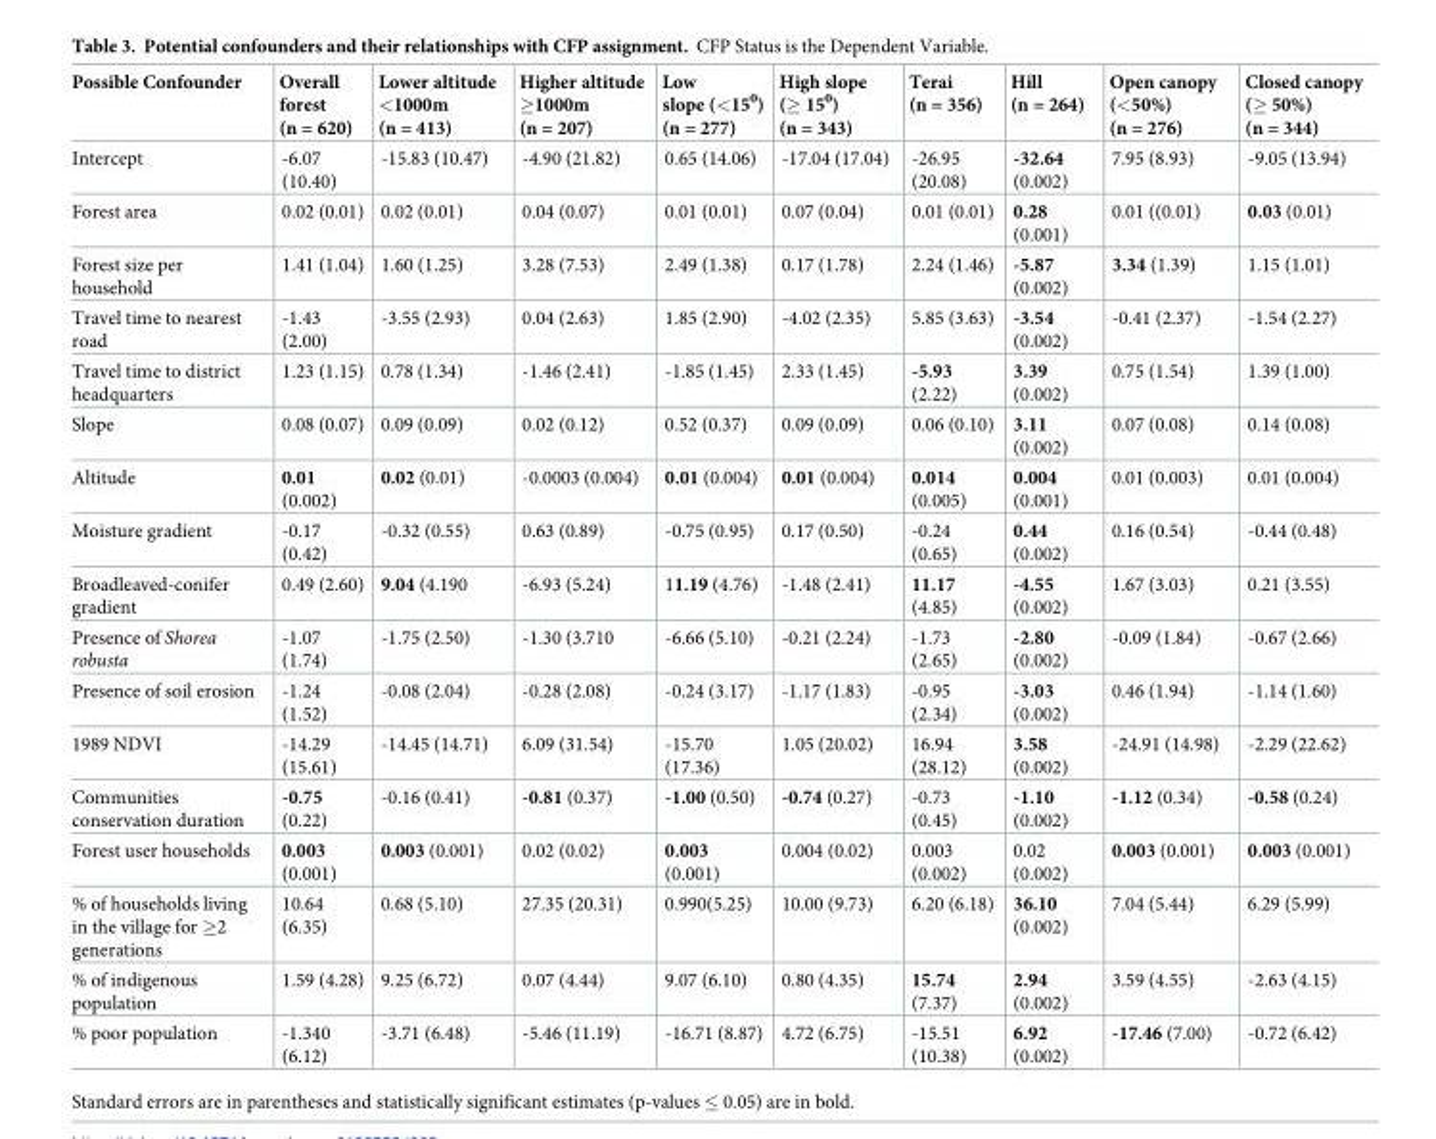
<table><thead><tr><td>Possible Confounder</td><td>Overall forest (n = 620)</td><td>Lower altitude &lt;1000m (n = 413)</td><td>Higher altitude ≥1000m (n = 207)</td><td>Low slope (&lt;15<sup>0</sup>) (n = 277)</td><td>High slope (≥ 15<sup>0</sup>) (n = 343)</td><td>Terai (n = 356)</td><td>Hill (n = 264)</td><td>Open canopy (&lt;50%) (n = 276)</td><td>Closed canopy (≥ 50%) (n = 344)</td></tr></thead><tbody><tr><td>Intercept</td><td>-6.07 (10.40)</td><td>-15.83 (10.47)</td><td>-4.90 (21.82)</td><td>0.65 (14.06)</td><td>-17.04 (17.04)</td><td>-26.95 (20.08)</td><td>-32.64 (0.002)</td><td>7.95 (8.93)</td><td>-9.05 (13.94)</td></tr><tr><td>Forest area</td><td>0.02 (0.01)</td><td>0.02 (0.01)</td><td>0.04 (0.07)</td><td>0.01 (0.01)</td><td>0.07 (0.04)</td><td>0.01 (0.01)</td><td>0.28 (0.001)</td><td>0.01 ((0.01)</td><td>0.03 (0.01)</td></tr><tr><td>Forest size per household</td><td>1.41 (1.04)</td><td>1.60 (1.25)</td><td>3.28 (7.53)</td><td>2.49 (1.38)</td><td>0.17 (1.78)</td><td>2.24 (1.46)</td><td>-5.87 (0.002)</td><td>3.34 (1.39)</td><td>1.15 (1.01)</td></tr><tr><td>Travel time to nearest road</td><td>-1.43 (2.00)</td><td>-3.55 (2.93)</td><td>0.04 (2.63)</td><td>1.85 (2.90)</td><td>-4.02 (2.35)</td><td>5.85 (3.63)</td><td>-3.54 (0.002)</td><td>-0.41 (2.37)</td><td>-1.54 (2.27)</td></tr><tr><td>Travel time to district headquarters</td><td>1.23 (1.15)</td><td>0.78 (1.34)</td><td>-1.46 (2.41)</td><td>-1.85 (1.45)</td><td>2.33 (1.45)</td><td>-5.93 (2.22)</td><td>3.39 (0.002)</td><td>0.75 (1.54)</td><td>1.39 (1.00)</td></tr><tr><td>Slope</td><td>0.08 (0.07)</td><td>0.09 (0.09)</td><td>0.02 (0.12)</td><td>0.52 (0.37)</td><td>0.09 (0.09)</td><td>0.06 (0.10)</td><td>3.11 (0.002)</td><td>0.07 (0.08)</td><td>0.14 (0.08)</td></tr><tr><td>Altitude</td><td>0.01 (0.002)</td><td>0.02 (0.01)</td><td>-0.0003 (0.004)</td><td>0.01 (0.004)</td><td>0.01 (0.004)</td><td>0.014 (0.005)</td><td>0.004 (0.001)</td><td>0.01 (0.003)</td><td>0.01 (0.004)</td></tr><tr><td>Moisture gradient</td><td>-0.17 (0.42)</td><td>-0.32 (0.55)</td><td>0.63 (0.89)</td><td>-0.75 (0.95)</td><td>0.17 (0.50)</td><td>-0.24 (0.65)</td><td>0.44 (0.002)</td><td>0.16 (0.54)</td><td>-0.44 (0.48)</td></tr><tr><td>Broadleaved-conifer gradient</td><td>0.49 (2.60)</td><td>9.04 (4.190</td><td>-6.93 (5.24)</td><td>11.19 (4.76)</td><td>-1.48 (2.41)</td><td>11.17 (4.85)</td><td>-4.55 (0.002)</td><td>1.67 (3.03)</td><td>0.21 (3.55)</td></tr><tr><td>Presence of Shorea robusta</td><td>-1.07 (1.74)</td><td>-1.75 (2.50)</td><td>-1.30 (3.710</td><td>-6.66 (5.10)</td><td>-0.21 (2.24)</td><td>-1.73 (2.65)</td><td>-2.80 (0.002)</td><td>-0.09 (1.84)</td><td>-0.67 (2.66)</td></tr><tr><td>Presence of soil erosion</td><td>-1.24 (1.52)</td><td>-0.08 (2.04)</td><td>-0.28 (2.08)</td><td>-0.24 (3.17)</td><td>-1.17 (1.83)</td><td>-0.95 (2.34)</td><td>-3.03 (0.002)</td><td>0.46 (1.94)</td><td>-1.14 (1.60)</td></tr><tr><td>1989 NDVI</td><td>-14.29 (15.61)</td><td>-14.45 (14.71)</td><td>6.09 (31.54)</td><td>-15.70 (17.36)</td><td>1.05 (20.02)</td><td>16.94 (28.12)</td><td>3.58 (0.002)</td><td>-24.91 (14.98)</td><td>-2.29 (22.62)</td></tr><tr><td>Communities conservation duration</td><td>-0.75 (0.22)</td><td>-0.16 (0.41)</td><td>-0.81 (0.37)</td><td>-1.00 (0.50)</td><td>-0.74 (0.27)</td><td>-0.73 (0.45)</td><td>-1.10 (0.002)</td><td>-1.12 (0.34)</td><td>-0.58 (0.24)</td></tr><tr><td>Forest user households</td><td>0.003 (0.001)</td><td>0.003 (0.001)</td><td>0.02 (0.02)</td><td>0.003 (0.001)</td><td>0.004 (0.02)</td><td>0.003 (0.002)</td><td>0.02 (0.002)</td><td>0.003 (0.001)</td><td>0.003 (0.001)</td></tr><tr><td>% of households living in the village for ≥2 generations</td><td>10.64 (6.35)</td><td>0.68 (5.10)</td><td>27.35 (20.31)</td><td>0.990(5.25)</td><td>10.00 (9.73)</td><td>6.20 (6.18)</td><td>36.10 (0.002)</td><td>7.04 (5.44)</td><td>6.29 (5.99)</td></tr><tr><td>% of indigenous population</td><td>1.59 (4.28)</td><td>9.25 (6.72)</td><td>0.07 (4.44)</td><td>9.07 (6.10)</td><td>0.80 (4.35)</td><td>15.74 (7.37)</td><td>2.94 (0.002)</td><td>3.59 (4.55)</td><td>-2.63 (4.15)</td></tr><tr><td>% poor population</td><td>-1.340 (6.12)</td><td>-3.71 (6.48)</td><td>-5.46 (11.19)</td><td>-16.71 (8.87)</td><td>4.72 (6.75)</td><td>-15.51 (10.38)</td><td>6.92 (0.002)</td><td>-17.46 (7.00)</td><td>-0.72 (6.42)</td></tr></tbody></table>